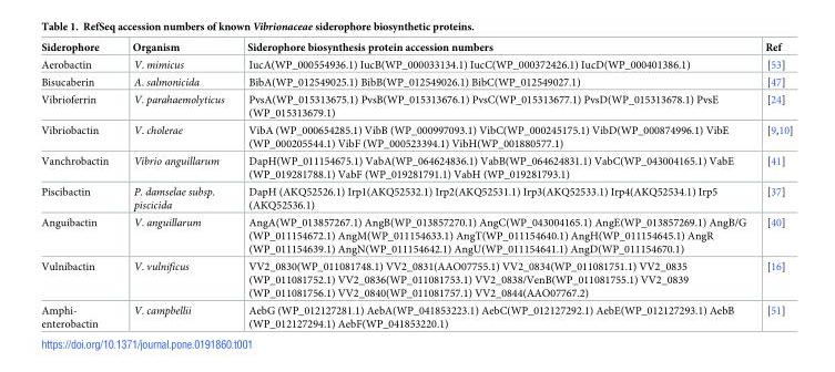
<table><thead><tr><td>Siderophore</td><td>Organism</td><td>Siderophore biosynthesis protein accession numbers</td><td>Ref</td></tr></thead><tbody><tr><td>Aerobactin</td><td>V. mimicus</td><td>IucA(WP_000554936.1) IucB(WP_000033134.1) IucC(WP_000372426.1) IucD(WP_000401386.1)</td><td>[53]</td></tr><tr><td>Bisucaberin</td><td>A. salmonicida</td><td>BibA(WP_012549025.1) BibB(WP_012549026.1) BibC(WP_012549027.1)</td><td>[47]</td></tr><tr><td>Vibrioferrin</td><td>V. parahaemolyticus</td><td>PvsA(WP_015313675.1) PvsB(WP_015313676.1) PvsC(WP_015313677.1) PvsD(WP_015313678.1) PvsE (WP_015313679.1)</td><td>[24]</td></tr><tr><td>Vibriobactin</td><td>V. cholerae</td><td>VibA (WP_000654285.1) VibB (WP_000997093.1) VibC(WP_000245175.1) VibD(WP_000874996.1) VibE (WP_000205544.1) VibF (WP_000523394.1) VibH(WP_001880577.1)</td><td>[9,10]</td></tr><tr><td>Vanchrobactin</td><td>Vibrio anguillarum</td><td>DapH(WP_011154675.1) VabA(WP_064624836.1) VabB(WP_064624831.1) VabC(WP_043004165.1) VabE (WP_019281788.1) VabF (WP_019281791.1) VabH (WP_019281793.1)</td><td>[41]</td></tr><tr><td>Piscibactin</td><td>P. damselae subsp. piscicida</td><td>DapH (AKQ52526.1) Irp1(AKQ52532.1) Irp2(AKQ52531.1) Irp3(AKQ52533.1) Irp4(AKQ52534.1) Irp5 (AKQ52536.1)</td><td>[37]</td></tr><tr><td>Anguibactin</td><td>V. anguillarum</td><td>AngA(WP_013857267.1) AngB(WP_013857270.1) AngC(WP_043004165.1) AngE(WP_013857269.1) AngB/G (WP_011154672.1) AngM(WP_011154633.1) AngT(WP_011154640.1) AngH(WP_011154645.1) AngR (WP_011154639.1) AngN(WP_011154642.1) AngU(WP_011154641.1) AngD(WP_011154670.1)</td><td>[40]</td></tr><tr><td>Vulnibactin</td><td>V. vulnificus</td><td>VV2_0830(WP_011081748.1) VV2_0831(AAO07755.1) VV2_0834(WP_011081751.1) VV2_0835 (WP_011081752.1) VV2_0836(WP_011081753.1) VV2_0838/VenB(WP_011081755.1) VV2_0839 (WP_011081756.1) VV2_0840(WP_011081757.1) VV2_0844(AAO07767.2)</td><td>[16]</td></tr><tr><td>Amphi- enterobactin</td><td>V. campbellii</td><td>AebG (WP_012127281.1) AebA(WP_041853223.1) AebC(WP_012127292.1) AebE(WP_012127293.1) AebB (WP_012127294.1) AebF(WP_041853220.1)</td><td>[51]</td></tr></tbody></table>